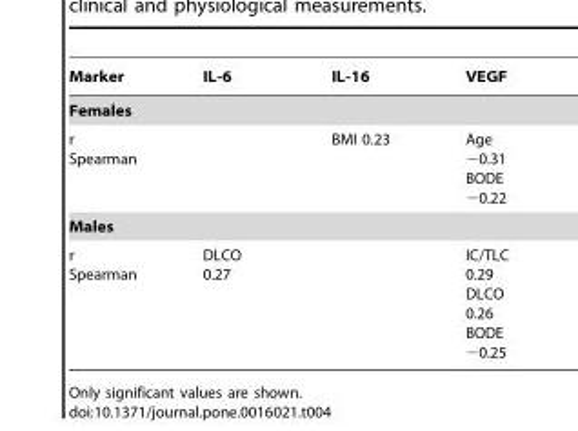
<table><thead><tr><td>Marker</td><td>IL-6</td><td>IL-16</td><td>VEGF</td></tr></thead><tbody><tr><td colspan="4">Females</td></tr><tr><td>r Spearman</td><td></td><td>BMI 0.23</td><td>Age −0.31 BODE −0.22</td></tr><tr><td colspan="4">Males</td></tr><tr><td>r Spearman</td><td>DLCO 0.27</td><td></td><td>IC/TLC 0.29 DLCO 0.26 BODE −0.25</td></tr></tbody></table>